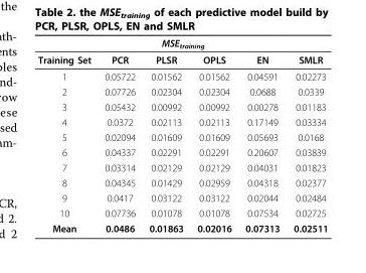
<table><thead><tr><td colspan="6">MSE<sub>training</sub></td></tr><tr><td>Training Set</td><td>PCR</td><td>PLSR</td><td>OPLS</td><td>EN</td><td>SMLR</td></tr></thead><tbody><tr><td>1</td><td>0.05722</td><td>0.01562</td><td>0.01562</td><td>0.04591</td><td>0.02273</td></tr><tr><td>2</td><td>0.07726</td><td>0.02304</td><td>0.02304</td><td>0.0688</td><td>0.0339</td></tr><tr><td>3</td><td>0.05432</td><td>0.00992</td><td>0.00992</td><td>0.00278</td><td>0.01183</td></tr><tr><td>4</td><td>0.0372</td><td>0.02113</td><td>0.02113</td><td>0.17149</td><td>0.03334</td></tr><tr><td>5</td><td>0.02094</td><td>0.01609</td><td>0.01609</td><td>0.05693</td><td>0.0168</td></tr><tr><td>6</td><td>0.04337</td><td>0.02291</td><td>0.02291</td><td>0.20607</td><td>0.03839</td></tr><tr><td>7</td><td>0.03314</td><td>0.02129</td><td>0.02129</td><td>0.04031</td><td>0.01823</td></tr><tr><td>8</td><td>0.04345</td><td>0.01429</td><td>0.02959</td><td>0.04318</td><td>0.02377</td></tr><tr><td>9</td><td>0.0417</td><td>0.03122</td><td>0.03122</td><td>0.02044</td><td>0.02484</td></tr><tr><td>10</td><td>0.07736</td><td>0.01078</td><td>0.01078</td><td>0.07534</td><td>0.02725</td></tr><tr><td>Mean</td><td>0.0486</td><td>0.01863</td><td>0.02016</td><td>0.07313</td><td>0.02511</td></tr></tbody></table>